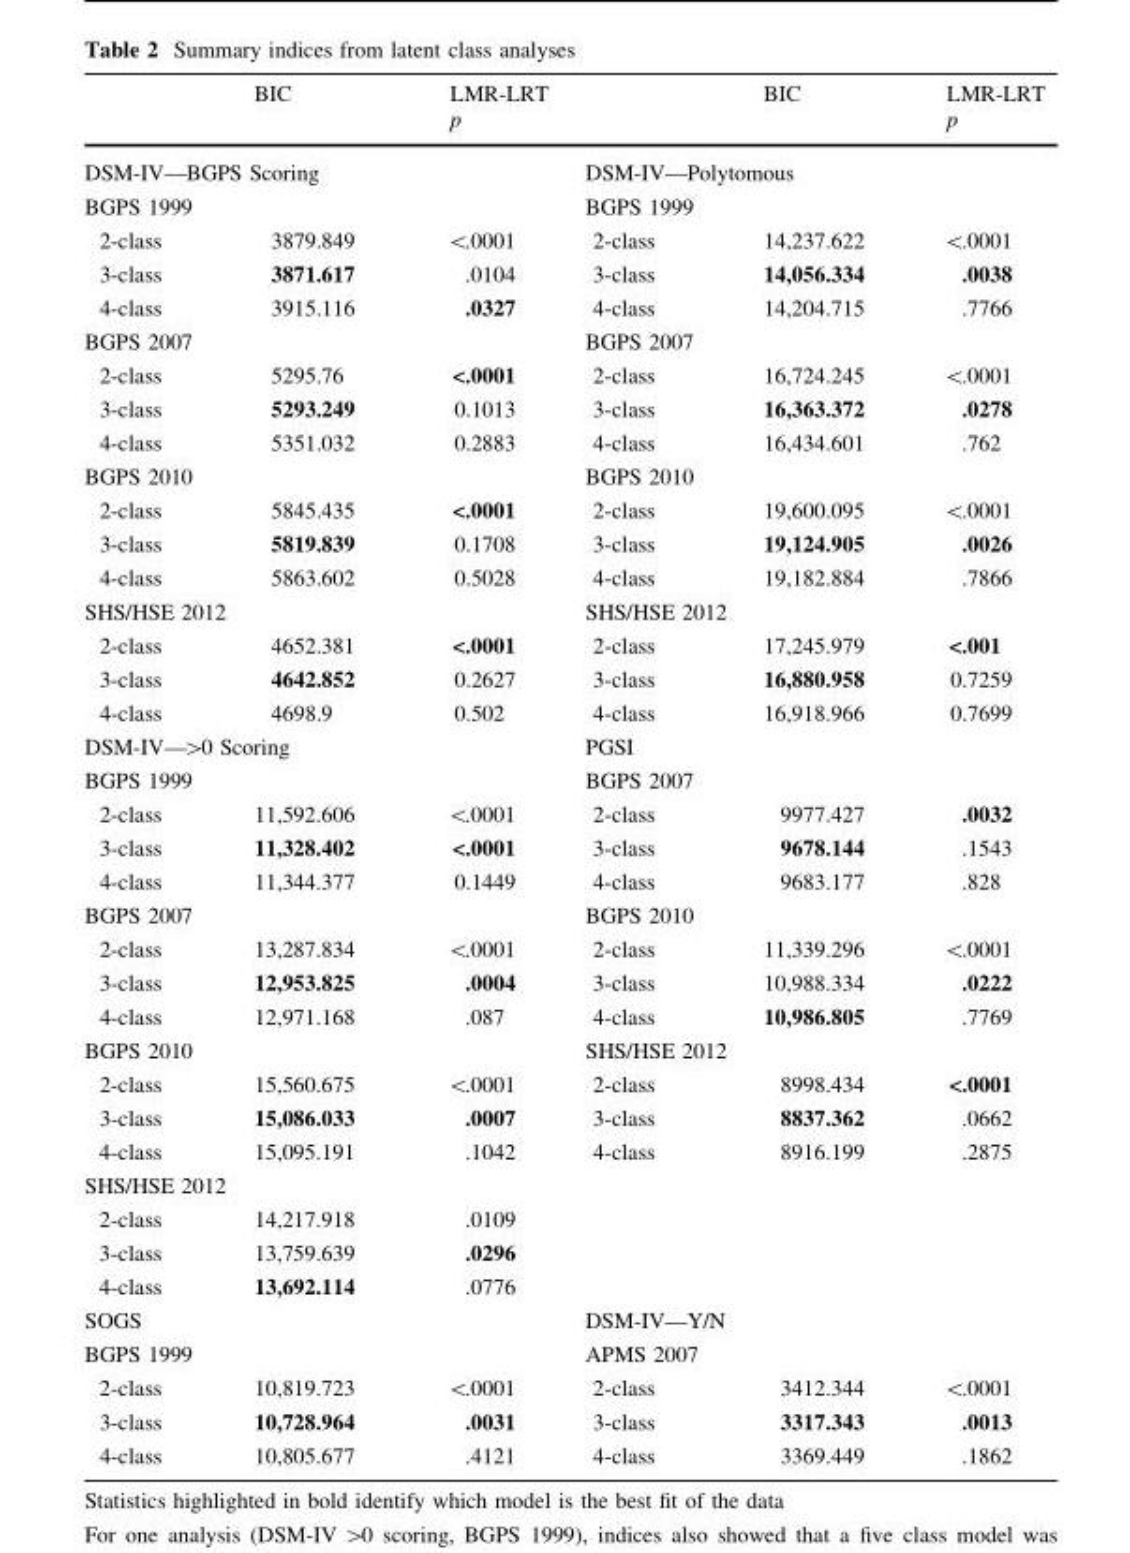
<table><thead><tr><td></td><td>BIC</td><td>LMR-LRT p</td><td></td><td>BIC</td><td>LMR-LRT p</td></tr></thead><tbody><tr><td colspan="3">DSM-IV—BGPS Scoring</td><td colspan="3">DSM-IV—Polytomous</td></tr><tr><td>BGPS 1999</td><td></td><td></td><td>BGPS 1999</td><td></td><td></td></tr><tr><td>2-class</td><td>3879.849</td><td>&lt;.0001</td><td>2-class</td><td>14,237.622</td><td>&lt;.0001</td></tr><tr><td>3-class</td><td>3871.617</td><td>.0104</td><td>3-class</td><td>14,056.334</td><td>.0038</td></tr><tr><td>4-class</td><td>3915.116</td><td>.0327</td><td>4-class</td><td>14,204.715</td><td>.7766</td></tr><tr><td>BGPS 2007</td><td></td><td></td><td>BGPS 2007</td><td></td><td></td></tr><tr><td>2-class</td><td>5295.76</td><td>&lt;.0001</td><td>2-class</td><td>16,724.245</td><td>&lt;.0001</td></tr><tr><td>3-class</td><td>5293.249</td><td>0.1013</td><td>3-class</td><td>16,363.372</td><td>.0278</td></tr><tr><td>4-class</td><td>5351.032</td><td>0.2883</td><td>4-class</td><td>16,434.601</td><td>.762</td></tr><tr><td>BGPS 2010</td><td></td><td></td><td>BGPS 2010</td><td></td><td></td></tr><tr><td>2-class</td><td>5845.435</td><td>&lt;.0001</td><td>2-class</td><td>19,600.095</td><td>&lt;.0001</td></tr><tr><td>3-class</td><td>5819.839</td><td>0.1708</td><td>3-class</td><td>19,124.905</td><td>.0026</td></tr><tr><td>4-class</td><td>5863.602</td><td>0.5028</td><td>4-class</td><td>19,182.884</td><td>.7866</td></tr><tr><td>SHS/HSE 2012</td><td></td><td></td><td>SHS/HSE 2012</td><td></td><td></td></tr><tr><td>2-class</td><td>4652.381</td><td>&lt;.0001</td><td>2-class</td><td>17,245.979</td><td>&lt;.001</td></tr><tr><td>3-class</td><td>4642.852</td><td>0.2627</td><td>3-class</td><td>16,880.958</td><td>0.7259</td></tr><tr><td>4-class</td><td>4698.9</td><td>0.502</td><td>4-class</td><td>16,918.966</td><td>0.7699</td></tr><tr><td colspan="3">DSM-IV—&gt;0 Scoring</td><td colspan="3">PGSI</td></tr><tr><td>BGPS 1999</td><td></td><td></td><td>BGPS 2007</td><td></td><td></td></tr><tr><td>2-class</td><td>11,592.606</td><td>&lt;.0001</td><td>2-class</td><td>9977.427</td><td>.0032</td></tr><tr><td>3-class</td><td>11,328.402</td><td>&lt;.0001</td><td>3-class</td><td>9678.144</td><td>.1543</td></tr><tr><td>4-class</td><td>11,344.377</td><td>0.1449</td><td>4-class</td><td>9683.177</td><td>.828</td></tr><tr><td>BGPS 2007</td><td></td><td></td><td>BGPS 2010</td><td></td><td></td></tr><tr><td>2-class</td><td>13,287.834</td><td>&lt;.0001</td><td>2-class</td><td>11,339.296</td><td>&lt;.0001</td></tr><tr><td>3-class</td><td>12,953.825</td><td>.0004</td><td>3-class</td><td>10,988.334</td><td>.0222</td></tr><tr><td>4-class</td><td>12,971.168</td><td>.087</td><td>4-class</td><td>10,986.805</td><td>.7769</td></tr><tr><td colspan="3">BGPS 2010</td><td colspan="3">SHS/HSE 2012</td></tr><tr><td>2-class</td><td>15,560.675</td><td>&lt;.0001</td><td>2-class</td><td>8998.434</td><td>&lt;.0001</td></tr><tr><td>3-class</td><td>15,086.033</td><td>.0007</td><td>3-class</td><td>8837.362</td><td>.0662</td></tr><tr><td>4-class</td><td>15,095.191</td><td>.1042</td><td>4-class</td><td>8916.199</td><td>.2875</td></tr><tr><td colspan="6">SHS/HSE 2012</td></tr><tr><td>2-class</td><td>14,217.918</td><td>.0109</td><td></td><td></td><td></td></tr><tr><td>3-class</td><td>13,759.639</td><td>.0296</td><td></td><td></td><td></td></tr><tr><td>4-class</td><td>13,692.114</td><td>.0776</td><td></td><td></td><td></td></tr><tr><td colspan="3">SOGS</td><td colspan="3">DSM-IV—Y/N</td></tr><tr><td>BGPS 1999</td><td></td><td></td><td>APMS 2007</td><td></td><td></td></tr><tr><td>2-class</td><td>10,819.723</td><td>&lt;.0001</td><td>2-class</td><td>3412.344</td><td>&lt;.0001</td></tr><tr><td>3-class</td><td>10,728.964</td><td>.0031</td><td>3-class</td><td>3317.343</td><td>.0013</td></tr><tr><td>4-class</td><td>10,805.677</td><td>.4121</td><td>4-class</td><td>3369.449</td><td>.1862</td></tr></tbody></table>